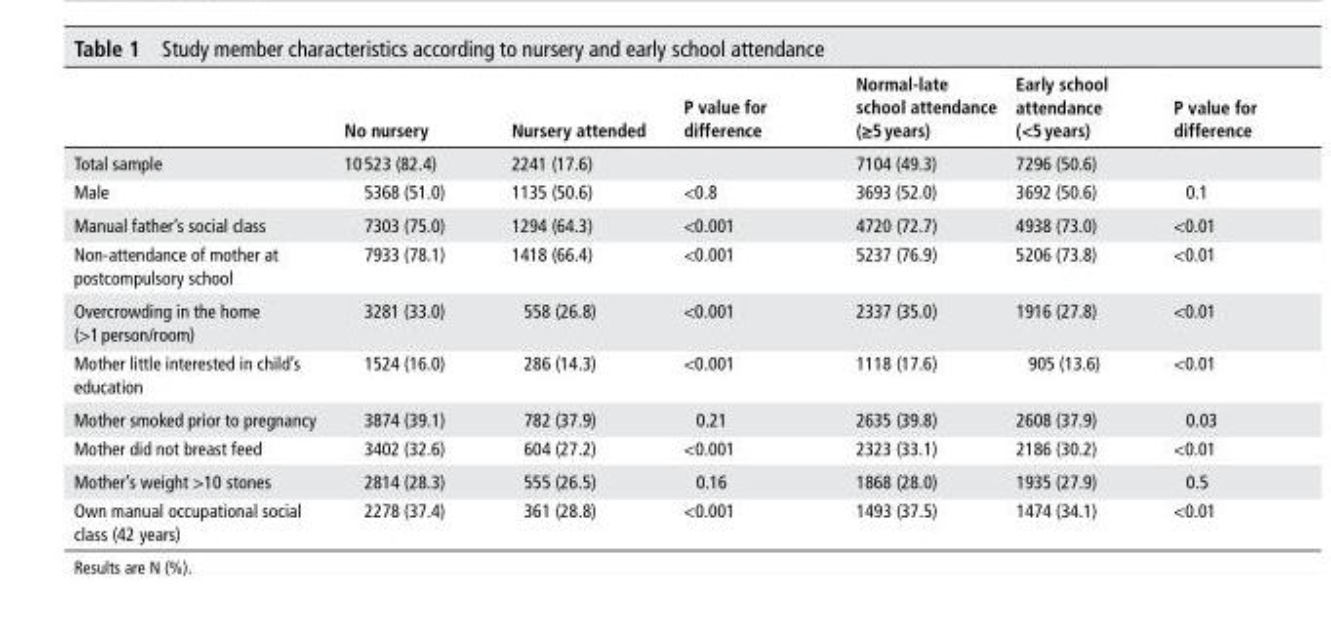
<table><thead><tr><td></td><td>no nursery</td><td>nursery attended</td><td>P value for difference</td><td>normal-late school attendance (≥5 years)</td><td>early school attendance (&lt;5 years)</td><td>P value for difference</td></tr></thead><tbody><tr><td>Total sample</td><td>10 523 (82.4)</td><td>2241 (17.6)</td><td></td><td>7104 (49.3)</td><td>7296 (50.6)</td><td></td></tr><tr><td>Male</td><td>5368 (51.0)</td><td>1135 (50.6)</td><td>&lt;0.8</td><td>3693 (52.0)</td><td>3692 (50.6)</td><td>0.1</td></tr><tr><td>Manual father’s social class</td><td>7303 (75.0)</td><td>1294 (64.3)</td><td>&lt;0.001</td><td>4720 (72.7)</td><td>4938 (73.0)</td><td>&lt;0.01</td></tr><tr><td>Non-attendance of mother at postcompulsory school</td><td>7933 (78.1)</td><td>1418 (66.4)</td><td>&lt;0.001</td><td>5237 (76.9)</td><td>5206 (73.8)</td><td>&lt;0.01</td></tr><tr><td>Overcrowding in the home (&gt;1 person/room)</td><td>3281 (33.0)</td><td>558 (26.8)</td><td>&lt;0.001</td><td>2337 (35.0)</td><td>1916 (27.8)</td><td>&lt;0.01</td></tr><tr><td>Mother little interested in child’s education</td><td>1524 (16.0)</td><td>286 (14.3)</td><td>&lt;0.001</td><td>1118 (17.6)</td><td>905 (13.6)</td><td>&lt;0.01</td></tr><tr><td>Mother smoked prior to pregnancy</td><td>3874 (39.1)</td><td>782 (37.9)</td><td>0.21</td><td>2635 (39.8)</td><td>2608 (37.9)</td><td>0.03</td></tr><tr><td>Mother did not breast feed</td><td>3402 (32.6)</td><td>604 (27.2)</td><td>&lt;0.001</td><td>2323 (33.1)</td><td>2186 (30.2)</td><td>&lt;0.01</td></tr><tr><td>Mother’s weight &gt;10 stones</td><td>2814 (28.3)</td><td>555 (26.5)</td><td>0.16</td><td>1868 (28.0)</td><td>1935 (27.9)</td><td>0.5</td></tr><tr><td>Own manual occupational social class (42 years)</td><td>2278 (37.4)</td><td>361 (28.8)</td><td>&lt;0.001</td><td>1493 (37.5)</td><td>1474 (34.1)</td><td>&lt;0.01</td></tr></tbody></table>